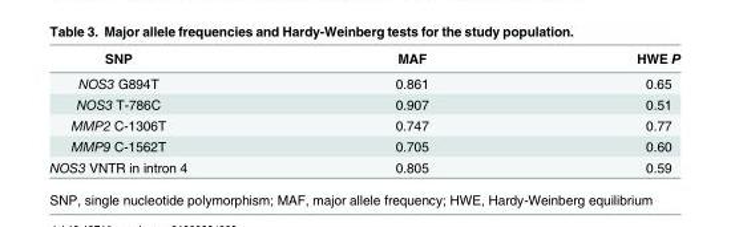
<table><thead><tr><td>SNP</td><td>MAF</td><td>HWE P</td></tr></thead><tbody><tr><td>NOS3 G894T</td><td>0.861</td><td>0.65</td></tr><tr><td>NOS3 T-786C</td><td>0.907</td><td>0.51</td></tr><tr><td>MMP2 C-1306T</td><td>0.747</td><td>0.77</td></tr><tr><td>MMP9 C-1562T</td><td>0.705</td><td>0.60</td></tr><tr><td>NOS3 VNTR in intron 4</td><td>0.805</td><td>0.59</td></tr></tbody></table>